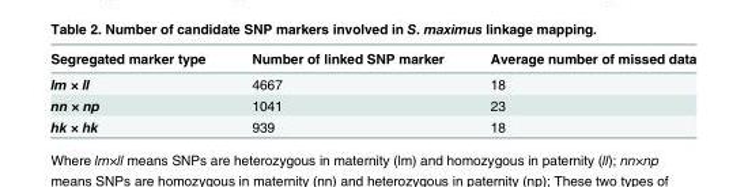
<table><thead><tr><td>Segregated marker type</td><td>Number of linked SNP marker</td><td>Average number of missed data</td></tr></thead><tbody><tr><td>lm × ll</td><td>4667</td><td>18</td></tr><tr><td>nn × np</td><td>1041</td><td>23</td></tr><tr><td>hk × hk</td><td>939</td><td>18</td></tr></tbody></table>